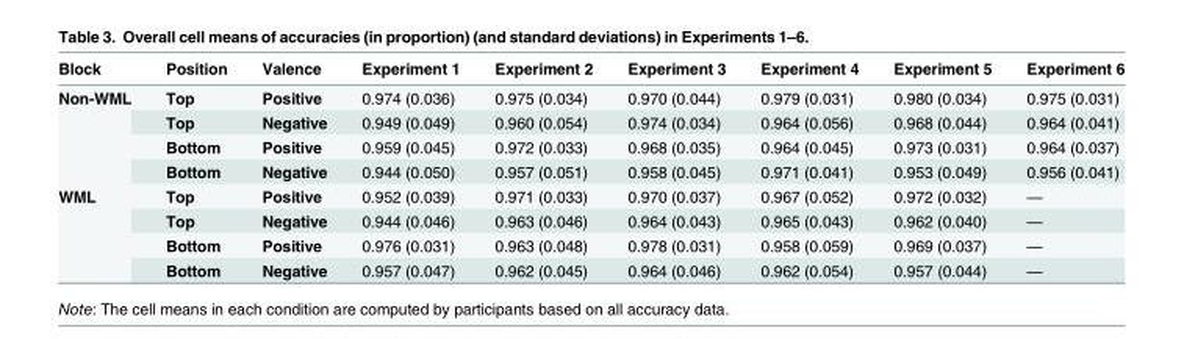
<table><thead><tr><td>Block</td><td>Position</td><td>Valence</td><td>Experiment 1</td><td>Experiment 2</td><td>Experiment 3</td><td>Experiment 4</td><td>Experiment 5</td><td>Experiment 6</td></tr></thead><tbody><tr><td rowspan="4">Non-WML</td><td>Top</td><td>Positive</td><td>0.974 (0.036)</td><td>0.975 (0.034)</td><td>0.970 (0.044)</td><td>0.979 (0.031)</td><td>0.980 (0.034)</td><td>0.975 (0.031)</td></tr><tr><td>Top</td><td>Negative</td><td>0.949 (0.049)</td><td>0.960 (0.054)</td><td>0.974 (0.034)</td><td>0.964 (0.056)</td><td>0.968 (0.044)</td><td>0.964 (0.041)</td></tr><tr><td>Bottom</td><td>Positive</td><td>0.959 (0.045)</td><td>0.972 (0.033)</td><td>0.968 (0.035)</td><td>0.964 (0.045)</td><td>0.973 (0.031)</td><td>0.964 (0.037)</td></tr><tr><td>Bottom</td><td>Negative</td><td>0.944 (0.050)</td><td>0.957 (0.051)</td><td>0.958 (0.045)</td><td>0.971 (0.041)</td><td>0.953 (0.049)</td><td>0.956 (0.041)</td></tr><tr><td rowspan="4">WML</td><td>Top</td><td>Positive</td><td>0.952 (0.039)</td><td>0.971 (0.033)</td><td>0.970 (0.037)</td><td>0.967 (0.052)</td><td>0.972 (0.032)</td><td>—</td></tr><tr><td>Top</td><td>Negative</td><td>0.944 (0.046)</td><td>0.963 (0.046)</td><td>0.964 (0.043)</td><td>0.965 (0.043)</td><td>0.962 (0.040)</td><td>—</td></tr><tr><td>Bottom</td><td>Positive</td><td>0.976 (0.031)</td><td>0.963 (0.048)</td><td>0.978 (0.031)</td><td>0.958 (0.059)</td><td>0.969 (0.037)</td><td>—</td></tr><tr><td>Bottom</td><td>Negative</td><td>0.957 (0.047)</td><td>0.962 (0.045)</td><td>0.964 (0.046)</td><td>0.962 (0.054)</td><td>0.957 (0.044)</td><td>—</td></tr></tbody></table>